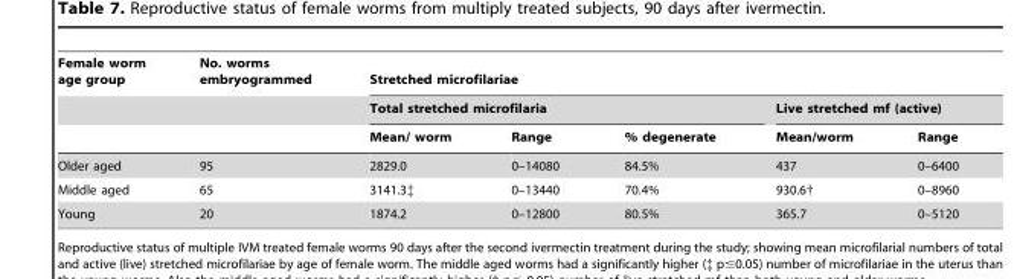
<table><thead><tr><td rowspan="3">Female worm age group</td><td rowspan="3">No. worms embryogrammed</td><td colspan="5">Stretched microfilariae</td></tr><tr><td colspan="3">Total stretched microfilaria</td><td colspan="2">Live stretched mf (active)</td></tr><tr><td>Mean/ worm</td><td>Range</td><td>% degenerate</td><td>Mean/worm</td><td>Range</td></tr></thead><tbody><tr><td>Older aged</td><td>95</td><td>2829.0</td><td>0–14080</td><td>84.5%</td><td>437</td><td>0–6400</td></tr><tr><td>Middle aged</td><td>65</td><td>3141.3‡</td><td>0–13440</td><td>70.4%</td><td>930.6†</td><td>0–8960</td></tr><tr><td>Young</td><td>20</td><td>1874.2</td><td>0–12800</td><td>80.5%</td><td>365.7</td><td>0–5120</td></tr></tbody></table>